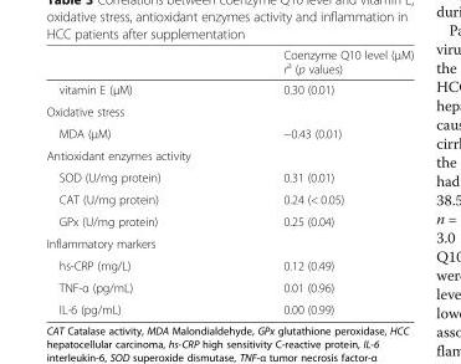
<table><thead><tr><td></td><td>Coenzyme Q10 level (μM) r<sup>a</sup> (p values)</td></tr></thead><tbody><tr><td>vitamin E (μM)</td><td>0.30 (0.01)</td></tr><tr><td colspan="2">Oxidative stress</td></tr><tr><td>MDA (μM)</td><td>−0.43 (0.01)</td></tr><tr><td colspan="2">Antioxidant enzymes activity</td></tr><tr><td>SOD (U/mg protein)</td><td>0.31 (0.01)</td></tr><tr><td>CAT (U/mg protein)</td><td>0.24 (&lt; 0.05)</td></tr><tr><td>GPx (U/mg protein)</td><td>0.25 (0.04)</td></tr><tr><td colspan="2">Inflammatory markers</td></tr><tr><td>hs-CRP (mg/L)</td><td>0.12 (0.49)</td></tr><tr><td>TNF-α (pg/mL)</td><td>0.01 (0.96)</td></tr><tr><td>IL-6 (pg/mL)</td><td>0.00 (0.99)</td></tr></tbody></table>